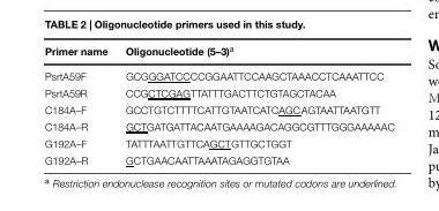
<table><thead><tr><td>Primer name</td><td>Oligonucleotide (5–3)<sup>a</sup></td></tr></thead><tbody><tr><td>PsrtA59F</td><td>GCGGGATCCCCGGAATTCCAAGCTAAACCTCAAATTCC</td></tr><tr><td>PsrtA59R</td><td>CCGCTCGAGTTATTTGACTTCTGTAGCTACAA</td></tr><tr><td>C184A–F</td><td>GCCTGTCTTTTCATTGTAATCATCAGCAGTAATTAATGTT</td></tr><tr><td>C184A–R</td><td>GCTGATGATTACAATGAAAAGACAGGCGTTTGGGAAAAAC</td></tr><tr><td>G192A–F</td><td>TATTTAATTGTTCAGCTGTTGCTGGT</td></tr><tr><td>G192A–R</td><td>GCTGAACAATTAAATAGAGGTGTAA</td></tr></tbody></table>